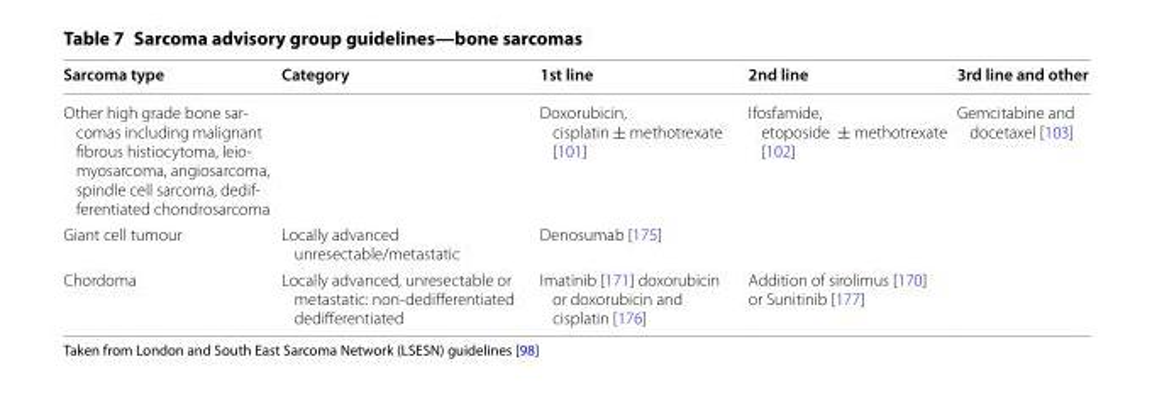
<table><thead><tr><td>Sarcoma type</td><td>Category</td><td>1st line</td><td>2nd line</td><td>3rd line and other</td></tr></thead><tbody><tr><td>Other high grade bone sar- comas including malignant fibrous histiocytoma, leio- myosarcoma, angiosarcoma, spindle cell sarcoma, dedif- ferentiated chondrosarcoma</td><td></td><td>Doxorubicin, cisplatin ± methotrexate [101]</td><td>Ifosfamide, etoposide ± methotrexate [102]</td><td>Gemcitabine and docetaxel [103]</td></tr><tr><td>Giant cell tumour</td><td>Locally advanced unresectable/metastatic</td><td>Denosumab [175]</td><td></td><td></td></tr><tr><td>Chordoma</td><td>Locally advanced, unresectable or metastatic: non-dedifferentiated dedifferentiated</td><td>Imatinib [171] doxorubicin or doxorubicin and cisplatin [176]</td><td>Addition of sirolimus [170] or Sunitinib [177]</td><td></td></tr></tbody></table>